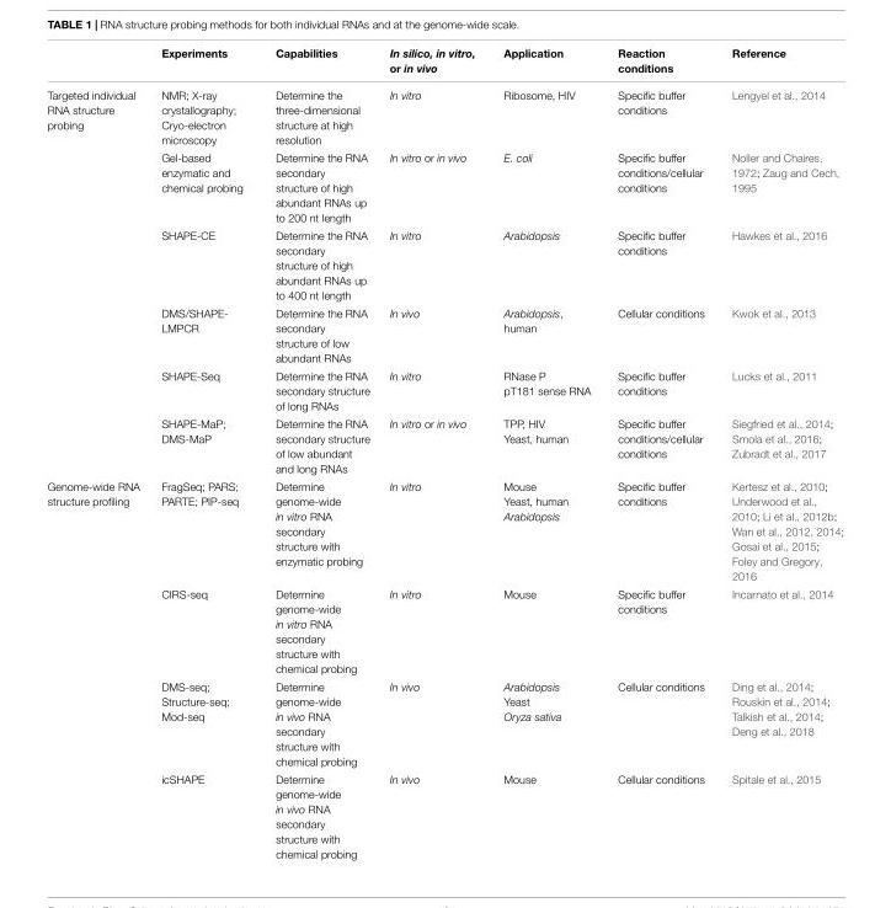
<table><thead><tr><td></td><td>Experiments</td><td>Capabilities</td><td>In silico, in vitro, or in vivo</td><td>Application</td><td>Reaction conditions</td><td>Reference</td></tr></thead><tbody><tr><td rowspan="6">Targeted individual RNA structure probing</td><td>NMR; X-ray crystallography; Cryo-electron microscopy</td><td>Determine the three-dimensional structure at high resolution</td><td>In vitro</td><td>Ribosome, HIV</td><td>Specific buffer conditions</td><td>Lengyel et al., 2014</td></tr><tr><td>Gel-based enzymatic and chemical probing</td><td>Determine the RNA secondary structure of high abundant RNAs up to 200 nt length</td><td>In vitro or in vivo</td><td>E. coli</td><td>Specific buffer conditions/cellular conditions</td><td>Noller and Chaires, 1972; Zaug and Cech, 1995</td></tr><tr><td>SHAPE-CE</td><td>Determine the RNA secondary structure of high abundant RNAs up to 400 nt length</td><td>In vitro</td><td>Arabidopsis</td><td>Specific buffer conditions</td><td>Hawkes et al., 2016</td></tr><tr><td>DMS/SHAPE- LMPCR</td><td>Determine the RNA secondary structure of low abundant RNAs</td><td>In vivo</td><td>Arabidopsis, human</td><td>Cellular conditions</td><td>Kwok et al., 2013</td></tr><tr><td>SHAPE-Seq</td><td>Determine the RNA secondary structure of long RNAs</td><td>In vitro</td><td>RNase P pT181 sense RNA</td><td>Specific buffer conditions</td><td>Lucks et al., 2011</td></tr><tr><td>SHAPE-MaP; DMS-MaP</td><td>Determine the RNA secondary structure of low abundant and long RNAs</td><td>In vitro or in vivo</td><td>TPP, HIV Yeast, human</td><td>Specific buffer conditions/cellular conditions</td><td>Siegfried et al., 2014; Smola et al., 2016; Zubradt et al., 2017</td></tr><tr><td rowspan="4">Genome-wide RNA structure profiling</td><td>FragSeq; PARS; PARTE; PIP-seq</td><td>Determine genome-wide in vitro RNA secondary structure with enzymatic probing</td><td>In vitro</td><td>Mouse Yeast, human Arabidopsis</td><td>Specific buffer conditions</td><td>Kertesz et al., 2010; Underwood et al., 2010; Li et al., 2012b; Wan et al., 2012, 2014; Gosai et al., 2015; Foley and Gregory, 2016</td></tr><tr><td>CIRS-seq</td><td>Determine genome-wide in vitro RNA secondary structure with chemical probing</td><td>In vitro</td><td>Mouse</td><td>Specific buffer conditions</td><td>Incarnato et al., 2014</td></tr><tr><td>DMS-seq; Structure-seq; Mod-seq</td><td>Determine genome-wide in vivo RNA secondary structure with chemical probing</td><td>In vivo</td><td>Arabidopsis Yeast Oryza sativa</td><td>Cellular conditions</td><td>Ding et al., 2014; Rouskin et al., 2014; Talkish et al., 2014; Deng et al., 2018</td></tr><tr><td>icSHAPE</td><td>Determine genome-wide in vivo RNA secondary structure with chemical probing</td><td>In vivo</td><td>Mouse</td><td>Cellular conditions</td><td>Spitale et al., 2015</td></tr></tbody></table>